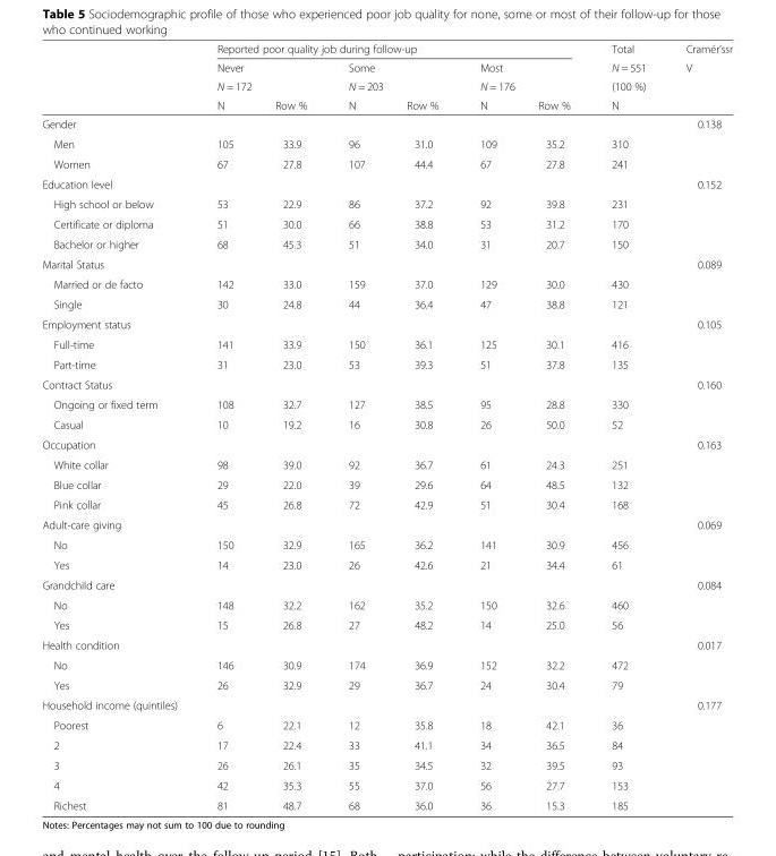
<table><thead><tr><td rowspan="4"></td><td colspan="6">Reported poor quality job during follow-up</td><td rowspan="4">Total N = 551 (100 %) N</td><td rowspan="4">Cramér’ssr V</td></tr><tr><td rowspan="2" colspan="2">Never N = 172</td><td rowspan="2" colspan="2">Some N = 203</td><td rowspan="2" colspan="2">Most N = 176</td></tr><tr></tr><tr><td>N</td><td>Row %</td><td>N</td><td>Row %</td><td>N</td><td>Row %</td></tr></thead><tbody><tr><td>Gender</td><td></td><td></td><td></td><td></td><td></td><td></td><td></td><td>0.138</td></tr><tr><td>Men</td><td>105</td><td>33.9</td><td>96</td><td>31.0</td><td>109</td><td>35.2</td><td>310</td><td></td></tr><tr><td>Women</td><td>67</td><td>27.8</td><td>107</td><td>44.4</td><td>67</td><td>27.8</td><td>241</td><td></td></tr><tr><td>Education level</td><td></td><td></td><td></td><td></td><td></td><td></td><td></td><td>0.152</td></tr><tr><td>High school or below</td><td>53</td><td>22.9</td><td>86</td><td>37.2</td><td>92</td><td>39.8</td><td>231</td><td></td></tr><tr><td>Certificate or diploma</td><td>51</td><td>30.0</td><td>66</td><td>38.8</td><td>53</td><td>31.2</td><td>170</td><td></td></tr><tr><td>Bachelor or higher</td><td>68</td><td>45.3</td><td>51</td><td>34.0</td><td>31</td><td>20.7</td><td>150</td><td></td></tr><tr><td>Marital Status</td><td></td><td></td><td></td><td></td><td></td><td></td><td></td><td>0.089</td></tr><tr><td>Married or de facto</td><td>142</td><td>33.0</td><td>159</td><td>37.0</td><td>129</td><td>30.0</td><td>430</td><td></td></tr><tr><td>Single</td><td>30</td><td>24.8</td><td>44</td><td>36.4</td><td>47</td><td>38.8</td><td>121</td><td></td></tr><tr><td>Employment status</td><td></td><td></td><td></td><td></td><td></td><td></td><td></td><td>0.105</td></tr><tr><td>Full-time</td><td>141</td><td>33.9</td><td>150</td><td>36.1</td><td>125</td><td>30.1</td><td>416</td><td></td></tr><tr><td>Part-time</td><td>31</td><td>23.0</td><td>53</td><td>39.3</td><td>51</td><td>37.8</td><td>135</td><td></td></tr><tr><td>Contract Status</td><td></td><td></td><td></td><td></td><td></td><td></td><td></td><td>0.160</td></tr><tr><td>Ongoing or fixed term</td><td>108</td><td>32.7</td><td>127</td><td>38.5</td><td>95</td><td>28.8</td><td>330</td><td></td></tr><tr><td>Casual</td><td>10</td><td>19.2</td><td>16</td><td>30.8</td><td>26</td><td>50.0</td><td>52</td><td></td></tr><tr><td>Occupation</td><td></td><td></td><td></td><td></td><td></td><td></td><td></td><td>0.163</td></tr><tr><td>White collar</td><td>98</td><td>39.0</td><td>92</td><td>36.7</td><td>61</td><td>24.3</td><td>251</td><td></td></tr><tr><td>Blue collar</td><td>29</td><td>22.0</td><td>39</td><td>29.6</td><td>64</td><td>48.5</td><td>132</td><td></td></tr><tr><td>Pink collar</td><td>45</td><td>26.8</td><td>72</td><td>42.9</td><td>51</td><td>30.4</td><td>168</td><td></td></tr><tr><td>Adult-care giving</td><td></td><td></td><td></td><td></td><td></td><td></td><td></td><td>0.069</td></tr><tr><td>No</td><td>150</td><td>32.9</td><td>165</td><td>36.2</td><td>141</td><td>30.9</td><td>456</td><td></td></tr><tr><td>Yes</td><td>14</td><td>23.0</td><td>26</td><td>42.6</td><td>21</td><td>34.4</td><td>61</td><td></td></tr><tr><td>Grandchild care</td><td></td><td></td><td></td><td></td><td></td><td></td><td></td><td>0.084</td></tr><tr><td>No</td><td>148</td><td>32.2</td><td>162</td><td>35.2</td><td>150</td><td>32.6</td><td>460</td><td></td></tr><tr><td>Yes</td><td>15</td><td>26.8</td><td>27</td><td>48.2</td><td>14</td><td>25.0</td><td>56</td><td></td></tr><tr><td>Health condition</td><td></td><td></td><td></td><td></td><td></td><td></td><td></td><td>0.017</td></tr><tr><td>No</td><td>146</td><td>30.9</td><td>174</td><td>36.9</td><td>152</td><td>32.2</td><td>472</td><td></td></tr><tr><td>Yes</td><td>26</td><td>32.9</td><td>29</td><td>36.7</td><td>24</td><td>30.4</td><td>79</td><td></td></tr><tr><td>Household income (quintiles)</td><td></td><td></td><td></td><td></td><td></td><td></td><td></td><td>0.177</td></tr><tr><td>Poorest</td><td>6</td><td>22.1</td><td>12</td><td>35.8</td><td>18</td><td>42.1</td><td>36</td><td></td></tr><tr><td>2</td><td>17</td><td>22.4</td><td>33</td><td>41.1</td><td>34</td><td>36.5</td><td>84</td><td></td></tr><tr><td>3</td><td>26</td><td>26.1</td><td>35</td><td>34.5</td><td>32</td><td>39.5</td><td>93</td><td></td></tr><tr><td>4</td><td>42</td><td>35.3</td><td>55</td><td>37.0</td><td>56</td><td>27.7</td><td>153</td><td></td></tr><tr><td>Richest</td><td>81</td><td>48.7</td><td>68</td><td>36.0</td><td>36</td><td>15.3</td><td>185</td><td></td></tr></tbody></table>